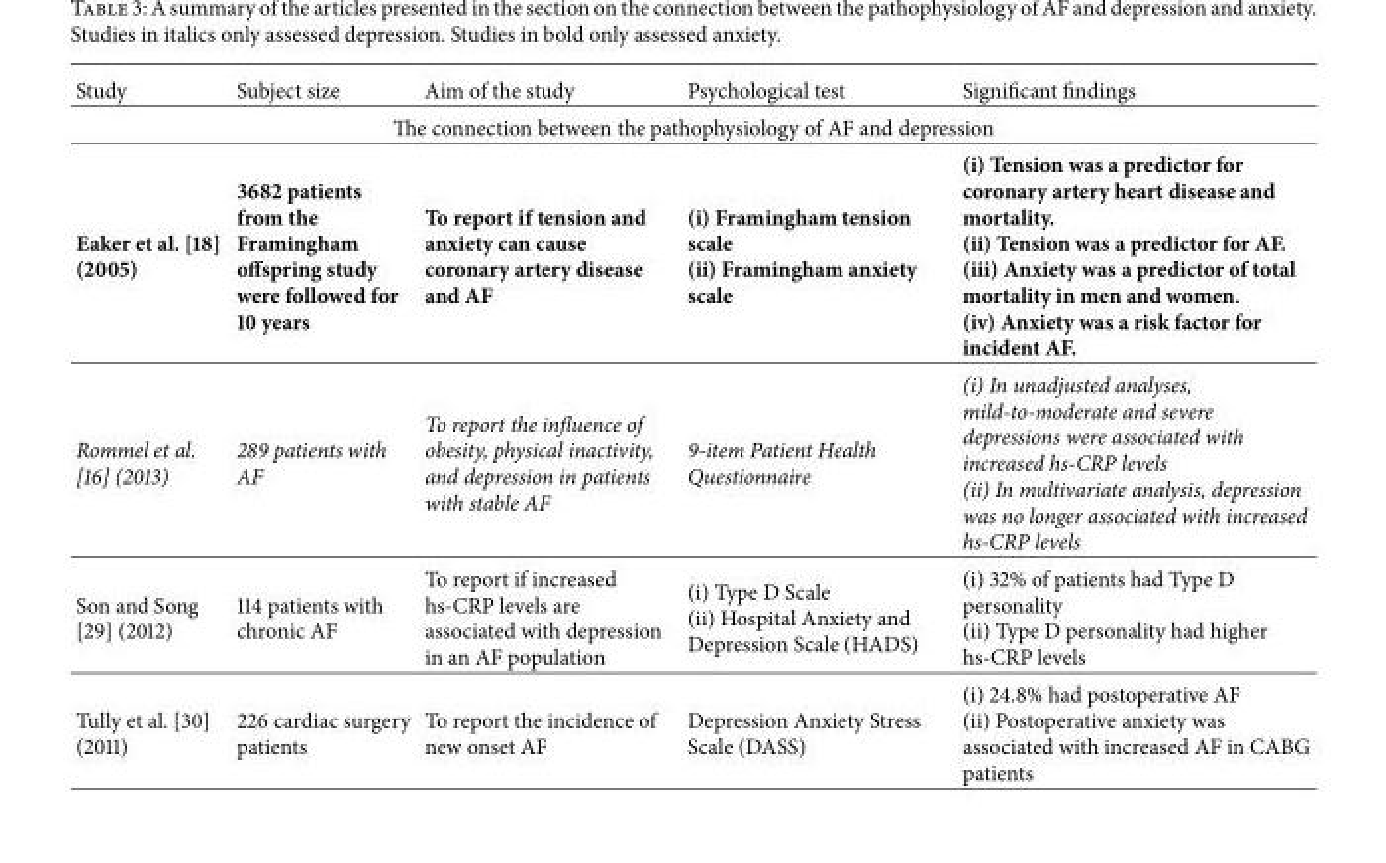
<table><thead><tr><td>Study</td><td>Subject size</td><td>Aim of the study</td><td>Psychological test</td><td>Significant findings</td></tr></thead><tbody><tr><td colspan="5">The connection between the pathophysiology of AF and depression</td></tr><tr><td>Eaker et al. [18] (2005)</td><td>3682 patients from the Framingham offspring study were followed for 10 years</td><td>To report if tension and anxiety can cause coronary artery disease and AF</td><td>(i) Framingham tension scale (ii) Framingham anxiety scale</td><td>(i) Tension was a predictor for coronary artery heart disease and mortality. (ii) Tension was a predictor for AF. (iii) Anxiety was a predictor of total mortality in men and women. (iv) Anxiety was a risk factor for incident AF.</td></tr><tr><td>Rommel et al. [16] (2013)</td><td>289 patients with AF</td><td>To report the influence of obesity, physical inactivity, and depression in patients with stable AF</td><td>9-item Patient Health Questionnaire</td><td>(i) In unadjusted analyses, mild-to-moderate and severe depressions were associated with increased hs-CRP levels (ii) In multivariate analysis, depression was no longer associated with increased hs-CRP levels</td></tr><tr><td>Son and Song [29] (2012)</td><td>114 patients with chronic AF</td><td>To report if increased hs-CRP levels are associated with depression in an AF population</td><td>(i) Type D Scale (ii) Hospital Anxiety and Depression Scale (HADS)</td><td>(i) 32% of patients had Type D personality (ii) Type D personality had higher hs-CRP levels</td></tr><tr><td>Tully et al. [30] (2011)</td><td>226 cardiac surgery patients</td><td>To report the incidence of new onset AF</td><td>Depression Anxiety Stress Scale (DASS)</td><td>(i) 24.8% had postoperative AF (ii) Postoperative anxiety was associated with increased AF in CABG patients</td></tr></tbody></table>